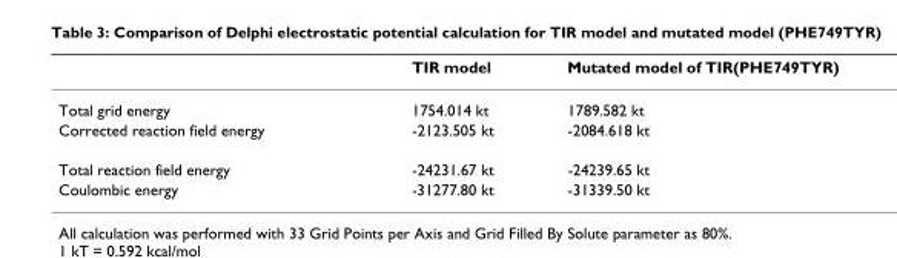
<table><thead><tr><td></td><td>TIR model</td><td>Mutated model of TIR(PHE749TYR)</td></tr></thead><tbody><tr><td>Total grid energy</td><td>1754.014 kt</td><td>1789.582 kt</td></tr><tr><td>Corrected reaction field energy</td><td>-2123.505 kt</td><td>-2084.618 kt</td></tr><tr><td>Total reaction field energy</td><td>-24231.67 kt</td><td>-24239.65 kt</td></tr><tr><td>Coulombic energy</td><td>-31277.80 kt</td><td>-31339.50 kt</td></tr></tbody></table>